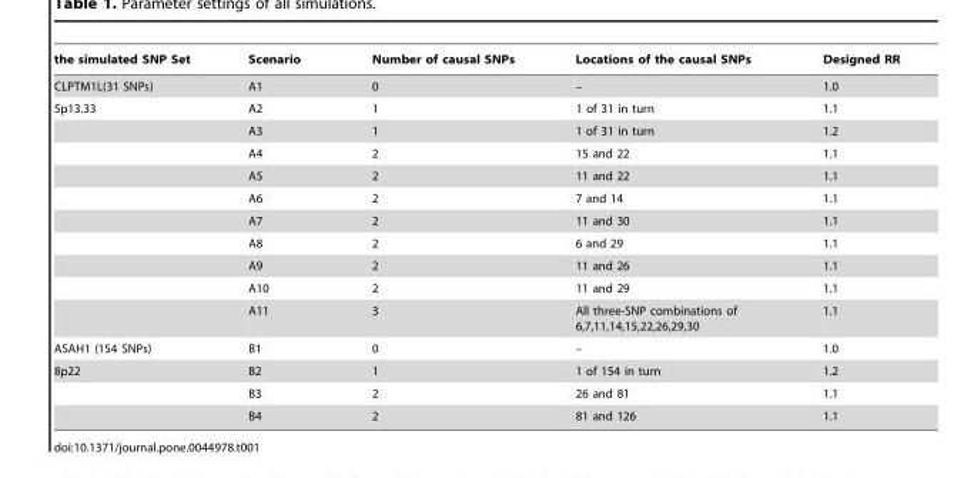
<table><thead><tr><td>the simulated SNP Set</td><td>Scenario</td><td>Number of causal SNPs</td><td>Locations of the causal SNPs</td><td>Designed RR</td></tr></thead><tbody><tr><td>CLPTM1L(31 SNPs)</td><td>A1</td><td>0</td><td>–</td><td>1.0</td></tr><tr><td rowspan="10">5p13.33</td><td>A2</td><td>1</td><td>1 of 31 in turn</td><td>1.1</td></tr><tr><td>A3</td><td>1</td><td>1 of 31 in turn</td><td>1.2</td></tr><tr><td>A4</td><td>2</td><td>15 and 22</td><td>1.1</td></tr><tr><td>A5</td><td>2</td><td>11 and 22</td><td>1.1</td></tr><tr><td>A6</td><td>2</td><td>7 and 14</td><td>1.1</td></tr><tr><td>A7</td><td>2</td><td>11 and 30</td><td>1.1</td></tr><tr><td>A8</td><td>2</td><td>6 and 29</td><td>1.1</td></tr><tr><td>A9</td><td>2</td><td>11 and 26</td><td>1.1</td></tr><tr><td>A10</td><td>2</td><td>11 and 29</td><td>1.1</td></tr><tr><td>A11</td><td>3</td><td>All three-SNP combinations of 6,7,11,14,15,22,26,29,30</td><td>1.1</td></tr><tr><td>ASAH1 (154 SNPs)</td><td>B1</td><td>0</td><td>–</td><td>1.0</td></tr><tr><td rowspan="3">8p22</td><td>B2</td><td>1</td><td>1 of 154 in turn</td><td>1.2</td></tr><tr><td>B3</td><td>2</td><td>26 and 81</td><td>1.1</td></tr><tr><td>B4</td><td>2</td><td>81 and 126</td><td>1.1</td></tr></tbody></table>